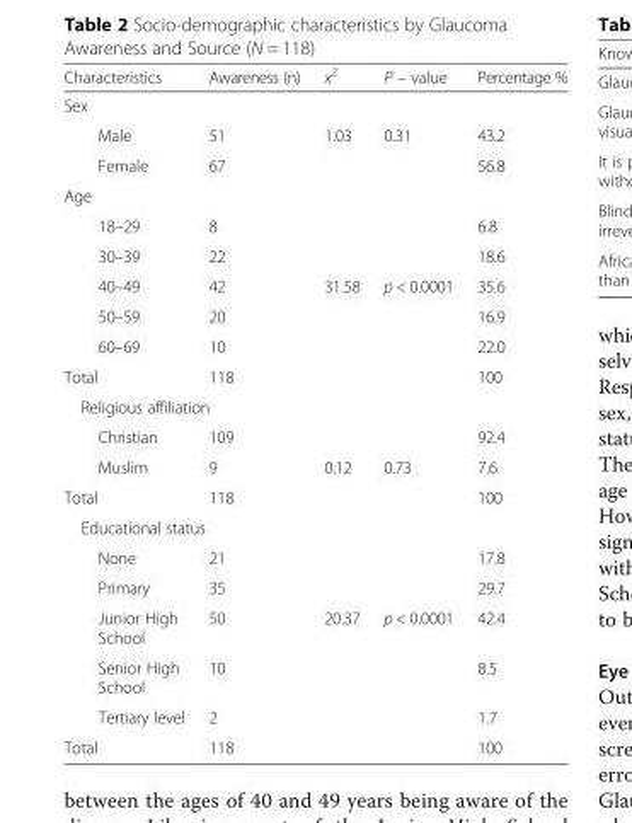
<table><thead><tr><td>Characteristics</td><td>Awareness (n)</td><td>x<sup>2</sup></td><td>P – value</td><td>Percentage %</td></tr></thead><tbody><tr><td colspan="5">Sex</td></tr><tr><td>Male</td><td>51</td><td>1.03</td><td>0.31</td><td>43.2</td></tr><tr><td>Female</td><td>67</td><td></td><td></td><td>56.8</td></tr><tr><td colspan="5">Age</td></tr><tr><td>18–29</td><td>8</td><td></td><td></td><td>6.8</td></tr><tr><td>30–39</td><td>22</td><td></td><td></td><td>18.6</td></tr><tr><td>40–49</td><td>42</td><td>31.58</td><td>p &lt; 0.0001</td><td>35.6</td></tr><tr><td>50–59</td><td>20</td><td></td><td></td><td>16.9</td></tr><tr><td>60–69</td><td>10</td><td></td><td></td><td>22.0</td></tr><tr><td>Total</td><td>118</td><td></td><td></td><td>100</td></tr><tr><td colspan="5">Religious affiliation</td></tr><tr><td>Christian</td><td>109</td><td></td><td></td><td>92.4</td></tr><tr><td>Muslim</td><td>9</td><td>0.12</td><td>0.73</td><td>7.6</td></tr><tr><td>Total</td><td>118</td><td></td><td></td><td>100</td></tr><tr><td colspan="5">Educational status</td></tr><tr><td>None</td><td>21</td><td></td><td></td><td>17.8</td></tr><tr><td>Primary</td><td>35</td><td></td><td></td><td>29.7</td></tr><tr><td>Junior High School</td><td>50</td><td>20.37</td><td>p &lt; 0.0001</td><td>42.4</td></tr><tr><td>Senior High School</td><td>10</td><td></td><td></td><td>8.5</td></tr><tr><td>Tertiary level</td><td>2</td><td></td><td></td><td>1.7</td></tr><tr><td>Total</td><td>118</td><td></td><td></td><td>100</td></tr></tbody></table>